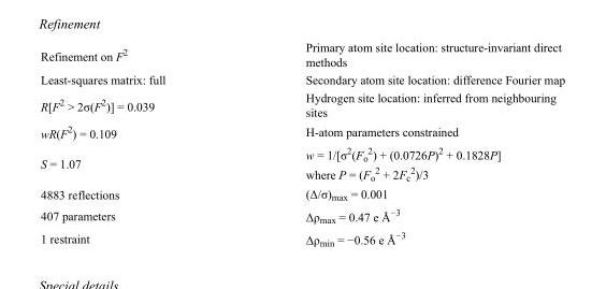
<table><tbody><tr><td>Refinement on F<sup>2</sup></td><td>Primary atom site location: structure-invariant direct methods</td></tr><tr><td>Least-squares matrix: full</td><td>Secondary atom site location: difference Fourier map</td></tr><tr><td>R[F<sup>2</sup> &gt; 2σ(F<sup>2</sup>)] = 0.039</td><td>Hydrogen site location: inferred from neighbouring sites</td></tr><tr><td>wR(F<sup>2</sup>) = 0.109</td><td>H-atom parameters constrained</td></tr><tr><td>S = 1.07</td><td>w = 1/[σ<sup>2</sup>(F<sub>o</sub> <sup>2</sup>) + (0.0726P)<sup>2</sup> + 0.1828P] where P = (F<sub>o</sub> <sup>2</sup> + 2F<sub>c</sub> <sup>2</sup>)/3</td></tr><tr><td>4883 reflections</td><td>(Δ/σ)<sub>max</sub> = 0.001</td></tr><tr><td>407 parameters</td><td>Δρ<sub>max</sub> = 0.47 e Å<sup>−3</sup></td></tr><tr><td>1 restraint</td><td>Δρ<sub>min</sub> = −0.56 e Å<sup>−3</sup></td></tr></tbody></table>